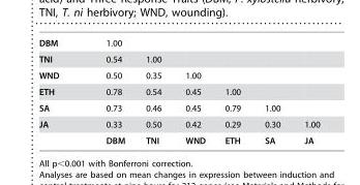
<table><tbody><tr><td>DBM</td><td>1.00</td><td></td><td></td><td></td><td></td><td></td></tr><tr><td>TNI</td><td>0.54</td><td>1.00</td><td></td><td></td><td></td><td></td></tr><tr><td>WND</td><td>0.50</td><td>0.35</td><td>1.00</td><td></td><td></td><td></td></tr><tr><td>ETH</td><td>0.78</td><td>0.54</td><td>0.45</td><td>1.00</td><td></td><td></td></tr><tr><td>SA</td><td>0.73</td><td>0.46</td><td>0.45</td><td>0.79</td><td>1.00</td><td></td></tr><tr><td rowspan="2">JA</td><td>0.33</td><td>0.50</td><td>0.42</td><td>0.29</td><td>0.30</td><td>1.00</td></tr><tr><td>DBM</td><td>TNI</td><td>WND</td><td>ETH</td><td>SA</td><td>JA</td></tr></tbody></table>